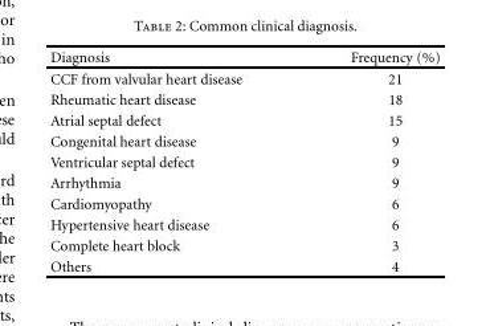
<table><thead><tr><td>Diagnosis</td><td>Frequency (%)</td></tr></thead><tbody><tr><td>CCF from valvular heart disease</td><td>21</td></tr><tr><td>Rheumatic heart disease</td><td>18</td></tr><tr><td>Atrial septal defect</td><td>15</td></tr><tr><td>Congenital heart disease</td><td>9</td></tr><tr><td>Ventricular septal defect</td><td>9</td></tr><tr><td>Arrhythmia</td><td>9</td></tr><tr><td>Cardiomyopathy</td><td>6</td></tr><tr><td>Hypertensive heart disease</td><td>6</td></tr><tr><td>Complete heart block</td><td>3</td></tr><tr><td>Others</td><td>4</td></tr></tbody></table>